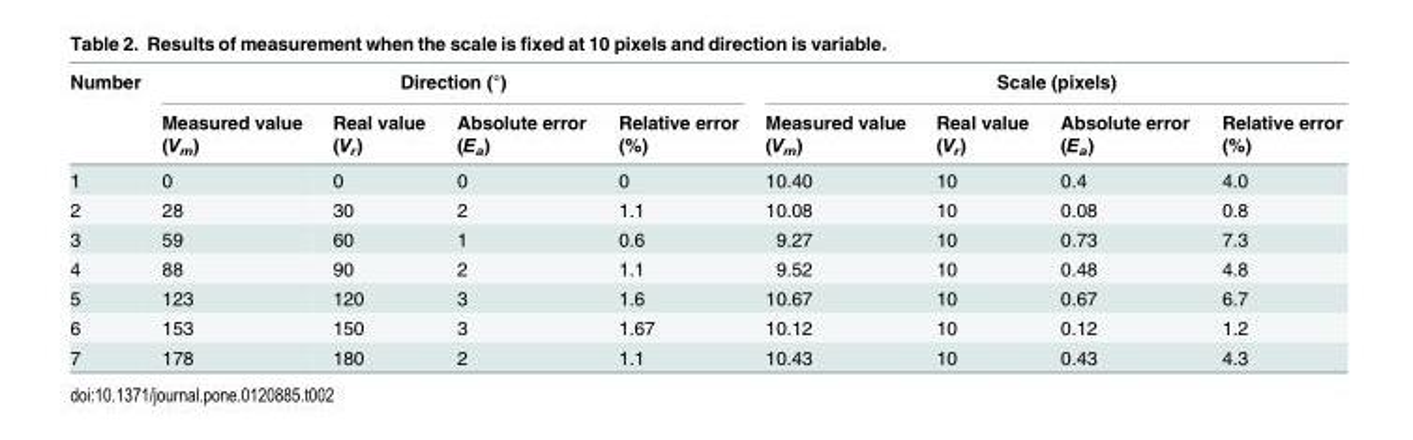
<table><thead><tr><td rowspan="2">Number</td><td colspan="4">Direction (°)</td><td colspan="4">Scale (pixels)</td></tr><tr><td>Measured value (V<sub>m</sub>)</td><td>Real value (V<sub>r</sub>)</td><td>Absolute error (E<sub>a</sub>)</td><td>Relative error (%)</td><td>Measured value (V<sub>m</sub>)</td><td>Real value (V<sub>r</sub>)</td><td>Absolute error (E<sub>a</sub>)</td><td>Relative error (%)</td></tr></thead><tbody><tr><td>1</td><td>0</td><td>0</td><td>0</td><td>0</td><td>10.40</td><td>10</td><td>0.4</td><td>4.0</td></tr><tr><td>2</td><td>28</td><td>30</td><td>2</td><td>1.1</td><td>10.08</td><td>10</td><td>0.08</td><td>0.8</td></tr><tr><td>3</td><td>59</td><td>60</td><td>1</td><td>0.6</td><td>9.27</td><td>10</td><td>0.73</td><td>7.3</td></tr><tr><td>4</td><td>88</td><td>90</td><td>2</td><td>1.1</td><td>9.52</td><td>10</td><td>0.48</td><td>4.8</td></tr><tr><td>5</td><td>123</td><td>120</td><td>3</td><td>1.6</td><td>10.67</td><td>10</td><td>0.67</td><td>6.7</td></tr><tr><td>6</td><td>153</td><td>150</td><td>3</td><td>1.67</td><td>10.12</td><td>10</td><td>0.12</td><td>1.2</td></tr><tr><td>7</td><td>178</td><td>180</td><td>2</td><td>1.1</td><td>10.43</td><td>10</td><td>0.43</td><td>4.3</td></tr></tbody></table>